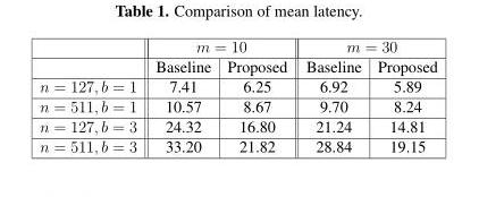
<table><thead><tr><td rowspan="2"></td><td colspan="2">m = 10</td><td colspan="2">m = 30</td></tr><tr><td>Baseline</td><td>Proposed</td><td>Baseline</td><td>Proposed</td></tr></thead><tbody><tr><td>n = 127, b = 1</td><td>7.41</td><td>6.25</td><td>6.92</td><td>5.89</td></tr><tr><td>n = 511, b = 1</td><td>10.57</td><td>8.67</td><td>9.70</td><td>8.24</td></tr><tr><td>n = 127, b = 3</td><td>24.32</td><td>16.80</td><td>21.24</td><td>14.81</td></tr><tr><td>n = 511, b = 3</td><td>33.20</td><td>21.82</td><td>28.84</td><td>19.15</td></tr></tbody></table>